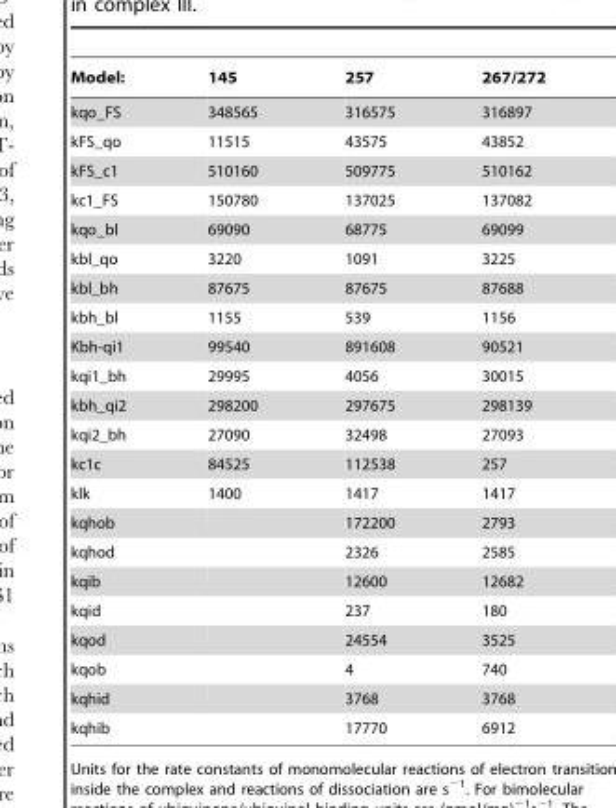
<table><thead><tr><td>Model:</td><td>145</td><td>257</td><td>267/272</td></tr></thead><tbody><tr><td>kqo_FS</td><td>348565</td><td>316575</td><td>316897</td></tr><tr><td>kFS_qo</td><td>11515</td><td>43575</td><td>43852</td></tr><tr><td>kFS_c1</td><td>510160</td><td>509775</td><td>510162</td></tr><tr><td>kc1_FS</td><td>150780</td><td>137025</td><td>137082</td></tr><tr><td>kqo_bl</td><td>69090</td><td>68775</td><td>69099</td></tr><tr><td>kbl_qo</td><td>3220</td><td>1091</td><td>3225</td></tr><tr><td>kbl_bh</td><td>87675</td><td>87675</td><td>87688</td></tr><tr><td>kbh_bl</td><td>1155</td><td>539</td><td>1156</td></tr><tr><td>Kbh-qi1</td><td>99540</td><td>891608</td><td>90521</td></tr><tr><td>kqi1_bh</td><td>29995</td><td>4056</td><td>30015</td></tr><tr><td>kbh_qi2</td><td>298200</td><td>297675</td><td>298139</td></tr><tr><td>kqi2_bh</td><td>27090</td><td>32498</td><td>27093</td></tr><tr><td>kc1c</td><td>84525</td><td>112538</td><td>257</td></tr><tr><td>klk</td><td>1400</td><td>1417</td><td>1417</td></tr><tr><td>kqhob</td><td></td><td>172200</td><td>2793</td></tr><tr><td>kqhod</td><td></td><td>2326</td><td>2585</td></tr><tr><td>kqib</td><td></td><td>12600</td><td>12682</td></tr><tr><td>kqid</td><td></td><td>237</td><td>180</td></tr><tr><td>kqod</td><td></td><td>24554</td><td>3525</td></tr><tr><td>kqob</td><td></td><td>4</td><td>740</td></tr><tr><td>kqhid</td><td></td><td>3768</td><td>3768</td></tr><tr><td>kqhib</td><td></td><td>17770</td><td>6912</td></tr></tbody></table>